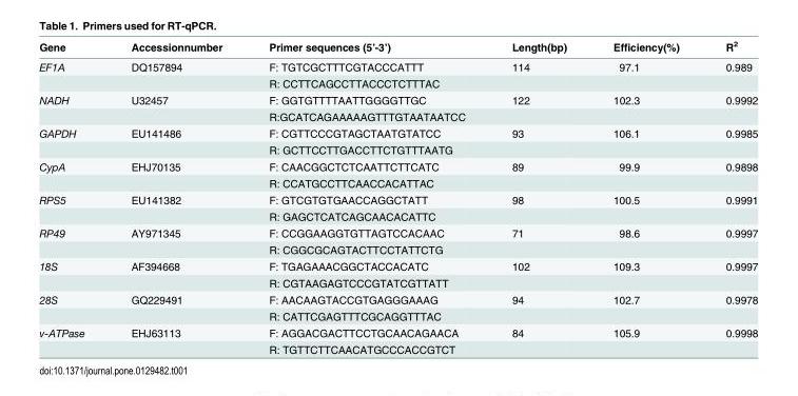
<table><thead><tr><td>Gene</td><td>Accessionnumber</td><td>Primer sequences (5’-3’)</td><td>Length(bp)</td><td>Efficiency(%)</td><td>R<sup>2</sup></td></tr></thead><tbody><tr><td rowspan="2">EF1A</td><td>DQ157894</td><td>F: TGTCGCTTTCGTACCCATTT</td><td>114</td><td>97.1</td><td>0.989</td></tr><tr><td></td><td>R: CCTTCAGCCTTACCCTCTTTAC</td><td></td><td></td><td></td></tr><tr><td rowspan="2">NADH</td><td>U32457</td><td>F: GGTGTTTTAATTGGGGTTGC</td><td>122</td><td>102.3</td><td>0.9992</td></tr><tr><td></td><td>R:GCATCAGAAAAAGTTTGTAATAATCC</td><td></td><td></td><td></td></tr><tr><td rowspan="2">GAPDH</td><td>EU141486</td><td>F: CGTTCCCGTAGCTAATGTATCC</td><td>93</td><td>106.1</td><td>0.9985</td></tr><tr><td></td><td>R: GCTTCCTTGACCTTCTGTTTAATG</td><td></td><td></td><td></td></tr><tr><td rowspan="2">CypA</td><td>EHJ70135</td><td>F: CAACGGCTCTCAATTCTTCATC</td><td>89</td><td>99.9</td><td>0.9898</td></tr><tr><td></td><td>R: CCATGCCTTCAACCACATTAC</td><td></td><td></td><td></td></tr><tr><td rowspan="2">RPS5</td><td>EU141382</td><td>F: GTCGTGTGAACCAGGCTATT</td><td>98</td><td>100.5</td><td>0.9991</td></tr><tr><td></td><td>R: GAGCTCATCAGCAACACATTC</td><td></td><td></td><td></td></tr><tr><td rowspan="2">RP49</td><td>AY971345</td><td>F: CCGGAAGGTGTTAGTCCACAAC</td><td>71</td><td>98.6</td><td>0.9997</td></tr><tr><td></td><td>R: CGGCGCAGTACTTCCTATTCTG</td><td></td><td></td><td></td></tr><tr><td rowspan="2">18S</td><td>AF394668</td><td>F: TGAGAAACGGCTACCACATC</td><td>102</td><td>109.3</td><td>0.9997</td></tr><tr><td></td><td>R: CGTAAGAGTCCCGTATCGTTATT</td><td></td><td></td><td></td></tr><tr><td rowspan="2">28S</td><td>GQ229491</td><td>F: AACAAGTACCGTGAGGGAAAG</td><td>94</td><td>102.7</td><td>0.9978</td></tr><tr><td></td><td>R: CATTCGAGTTTCGCAGGTTTAC</td><td></td><td></td><td></td></tr><tr><td rowspan="2">v-ATPase</td><td>EHJ63113</td><td>F: AGGACGACTTCCTGCAACAGAACA</td><td>84</td><td>105.9</td><td>0.9998</td></tr><tr><td></td><td>R: TGTTCTTCAACATGCCCACCGTCT</td><td></td><td></td><td></td></tr></tbody></table>